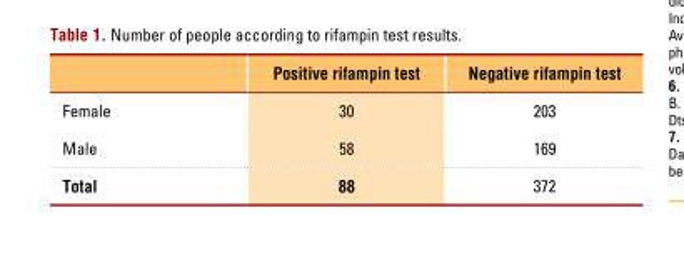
<table><thead><tr><td></td><td>Positive rifampin test</td><td>Negative rifampin test</td></tr></thead><tbody><tr><td>Female</td><td>30</td><td>203</td></tr><tr><td>Male</td><td>58</td><td>169</td></tr><tr><td>Total</td><td>88</td><td>372</td></tr></tbody></table>